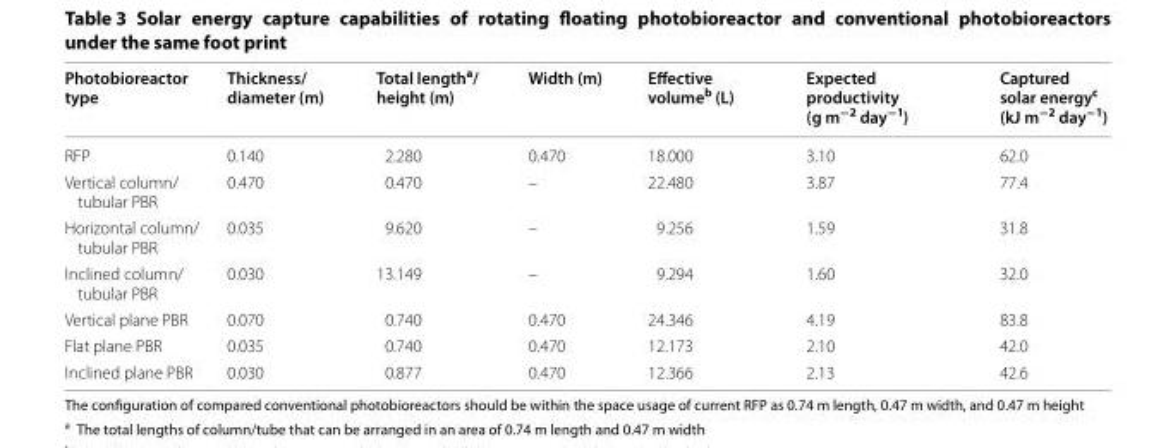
<table><thead><tr><td>Photobioreactor type</td><td>Thickness/ diameter (m)</td><td>Total length<sup>a</sup>/ height (m)</td><td>Width (m)</td><td>Effective volume<sup>b</sup> (L)</td><td>Expected productivity (g m<sup>−2</sup> day<sup>−1</sup>)</td><td>Captured solar energy<sup>c</sup> (kJ m<sup>−2</sup> day<sup>−1</sup>)</td></tr></thead><tbody><tr><td>RFP</td><td>0.140</td><td>2.280</td><td>0.470</td><td>18.000</td><td>3.10</td><td>62.0</td></tr><tr><td>Vertical column/ tubular PBR</td><td>0.470</td><td>0.470</td><td>–</td><td>22.480</td><td>3.87</td><td>77.4</td></tr><tr><td>Horizontal column/ tubular PBR</td><td>0.035</td><td>9.620</td><td>–</td><td>9.256</td><td>1.59</td><td>31.8</td></tr><tr><td>Inclined column/ tubular PBR</td><td>0.030</td><td>13.149</td><td>–</td><td>9.294</td><td>1.60</td><td>32.0</td></tr><tr><td>Vertical plane PBR</td><td>0.070</td><td>0.740</td><td>0.470</td><td>24.346</td><td>4.19</td><td>83.8</td></tr><tr><td>Flat plane PBR</td><td>0.035</td><td>0.740</td><td>0.470</td><td>12.173</td><td>2.10</td><td>42.0</td></tr><tr><td>Inclined plane PBR</td><td>0.030</td><td>0.877</td><td>0.470</td><td>12.366</td><td>2.13</td><td>42.6</td></tr></tbody></table>